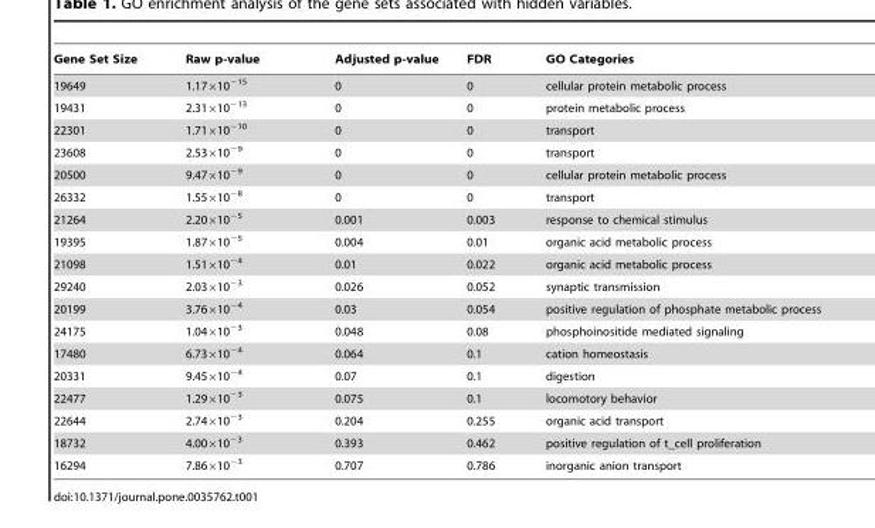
<table><thead><tr><td>Gene Set Size</td><td>Raw p-value</td><td>Adjusted p-value</td><td>FDR</td><td>GO Categories</td></tr></thead><tbody><tr><td>19649</td><td>1.17×10<sup>−15</sup></td><td>0</td><td>0</td><td>cellular protein metabolic process</td></tr><tr><td>19431</td><td>2.31×10<sup>−13</sup></td><td>0</td><td>0</td><td>protein metabolic process</td></tr><tr><td>22301</td><td>1.71×10<sup>−10</sup></td><td>0</td><td>0</td><td>transport</td></tr><tr><td>23608</td><td>2.53×10<sup>−9</sup></td><td>0</td><td>0</td><td>transport</td></tr><tr><td>20500</td><td>9.47×10<sup>−9</sup></td><td>0</td><td>0</td><td>cellular protein metabolic process</td></tr><tr><td>26332</td><td>1.55×10<sup>−8</sup></td><td>0</td><td>0</td><td>transport</td></tr><tr><td>21264</td><td>2.20×10<sup>−5</sup></td><td>0.001</td><td>0.003</td><td>response to chemical stimulus</td></tr><tr><td>19395</td><td>1.87×10<sup>−5</sup></td><td>0.004</td><td>0.01</td><td>organic acid metabolic process</td></tr><tr><td>21098</td><td>1.51×10<sup>−4</sup></td><td>0.01</td><td>0.022</td><td>organic acid metabolic process</td></tr><tr><td>29240</td><td>2.03×10<sup>−3</sup></td><td>0.026</td><td>0.052</td><td>synaptic transmission</td></tr><tr><td>20199</td><td>3.76×10<sup>−4</sup></td><td>0.03</td><td>0.054</td><td>positive regulation of phosphate metabolic process</td></tr><tr><td>24175</td><td>1.04×10<sup>−3</sup></td><td>0.048</td><td>0.08</td><td>phosphoinositide mediated signaling</td></tr><tr><td>17480</td><td>6.73×10<sup>−4</sup></td><td>0.064</td><td>0.1</td><td>cation homeostasis</td></tr><tr><td>20331</td><td>9.45×10<sup>−4</sup></td><td>0.07</td><td>0.1</td><td>digestion</td></tr><tr><td>22477</td><td>1.29×10<sup>−3</sup></td><td>0.075</td><td>0.1</td><td>locomotory behavior</td></tr><tr><td>22644</td><td>2.74×10<sup>−3</sup></td><td>0.204</td><td>0.255</td><td>organic acid transport</td></tr><tr><td>18732</td><td>4.00×10<sup>−3</sup></td><td>0.393</td><td>0.462</td><td>positive regulation of t_cell proliferation</td></tr><tr><td>16294</td><td>7.86×10<sup>−3</sup></td><td>0.707</td><td>0.786</td><td>inorganic anion transport</td></tr></tbody></table>